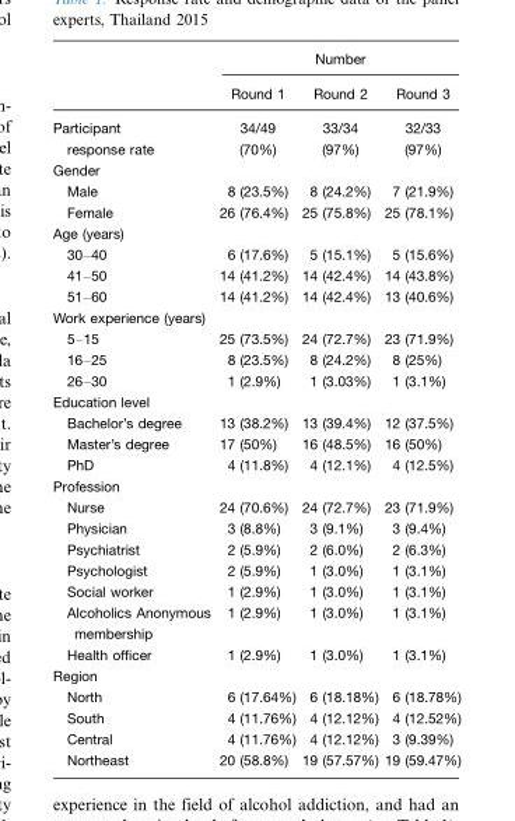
<table><thead><tr><td rowspan="2"></td><td colspan="3">Number</td></tr><tr><td>Round 1</td><td>Round 2</td><td>Round 3</td></tr></thead><tbody><tr><td>Participant response rate</td><td>34/49 (70%)</td><td>33/34 (97%)</td><td>32/33 (97%)</td></tr><tr><td colspan="4">Gender</td></tr><tr><td>Male</td><td>8 (23.5%)</td><td>8 (24.2%)</td><td>7 (21.9%)</td></tr><tr><td>Female</td><td>26 (76.4%)</td><td>25 (75.8%)</td><td>25 (78.1%)</td></tr><tr><td colspan="4">Age (years)</td></tr><tr><td>30–40</td><td>6 (17.6%)</td><td>5 (15.1%)</td><td>5 (15.6%)</td></tr><tr><td>41–50</td><td>14 (41.2%)</td><td>14 (42.4%)</td><td>14 (43.8%)</td></tr><tr><td>51–60</td><td>14 (41.2%)</td><td>14 (42.4%)</td><td>13 (40.6%)</td></tr><tr><td colspan="4">Work experience (years)</td></tr><tr><td>5–15</td><td>25 (73.5%)</td><td>24 (72.7%)</td><td>23 (71.9%)</td></tr><tr><td>16–25</td><td>8 (23.5%)</td><td>8 (24.2%)</td><td>8 (25%)</td></tr><tr><td>26–30</td><td>1 (2.9%)</td><td>1 (3.03%)</td><td>1 (3.1%)</td></tr><tr><td colspan="4">Education level</td></tr><tr><td>Bachelor’s degree</td><td>13 (38.2%)</td><td>13 (39.4%)</td><td>12 (37.5%)</td></tr><tr><td>Master’s degree</td><td>17 (50%)</td><td>16 (48.5%)</td><td>16 (50%)</td></tr><tr><td>PhD</td><td>4 (11.8%)</td><td>4 (12.1%)</td><td>4 (12.5%)</td></tr><tr><td colspan="4">Profession</td></tr><tr><td>Nurse</td><td>24 (70.6%)</td><td>24 (72.7%)</td><td>23 (71.9%)</td></tr><tr><td>Physician</td><td>3 (8.8%)</td><td>3 (9.1%)</td><td>3 (9.4%)</td></tr><tr><td>Psychiatrist</td><td>2 (5.9%)</td><td>2 (6.0%)</td><td>2 (6.3%)</td></tr><tr><td>Psychologist</td><td>2 (5.9%)</td><td>1 (3.0%)</td><td>1 (3.1%)</td></tr><tr><td>Social worker</td><td>1 (2.9%)</td><td>1 (3.0%)</td><td>1 (3.1%)</td></tr><tr><td>Alcoholics Anonymous membership</td><td>1 (2.9%)</td><td>1 (3.0%)</td><td>1 (3.1%)</td></tr><tr><td>Health officer</td><td>1 (2.9%)</td><td>1 (3.0%)</td><td>1 (3.1%)</td></tr><tr><td colspan="4">Region</td></tr><tr><td>North</td><td>6 (17.64%)</td><td>6 (18.18%)</td><td>6 (18.78%)</td></tr><tr><td>South</td><td>4 (11.76%)</td><td>4 (12.12%)</td><td>4 (12.52%)</td></tr><tr><td>Central</td><td>4 (11.76%)</td><td>4 (12.12%)</td><td>3 (9.39%)</td></tr><tr><td>Northeast</td><td>20 (58.8%)</td><td>19 (57.57%)</td><td>19 (59.47%)</td></tr></tbody></table>